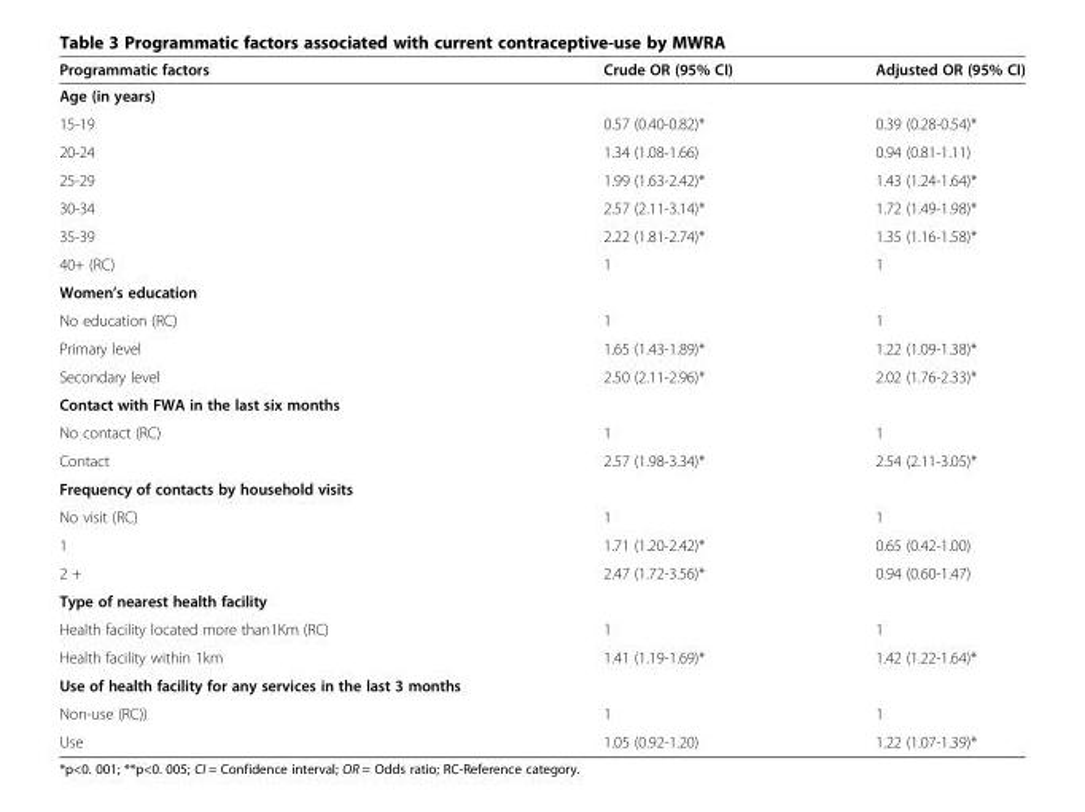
<table><thead><tr><td>Programmatic factors</td><td>Crude OR (95% CI)</td><td>Adjusted OR (95% CI)</td></tr></thead><tbody><tr><td colspan="3">Age (in years)</td></tr><tr><td>15-19</td><td>0.57 (0.40-0.82)*</td><td>0.39 (0.28-0.54)*</td></tr><tr><td>20-24</td><td>1.34 (1.08-1.66)</td><td>0.94 (0.81-1.11)</td></tr><tr><td>25-29</td><td>1.99 (1.63-2.42)*</td><td>1.43 (1.24-1.64)*</td></tr><tr><td>30-34</td><td>2.57 (2.11-3.14)*</td><td>1.72 (1.49-1.98)*</td></tr><tr><td>35-39</td><td>2.22 (1.81-2.74)*</td><td>1.35 (1.16-1.58)*</td></tr><tr><td>40+ (RC)</td><td>1</td><td>1</td></tr><tr><td colspan="3">Women’s education</td></tr><tr><td>No education (RC)</td><td>1</td><td>1</td></tr><tr><td>Primary level</td><td>1.65 (1.43-1.89)*</td><td>1.22 (1.09-1.38)*</td></tr><tr><td>Secondary level</td><td>2.50 (2.11-2.96)*</td><td>2.02 (1.76-2.33)*</td></tr><tr><td colspan="3">Contact with FWA in the last six months</td></tr><tr><td>No contact (RC)</td><td>1</td><td>1</td></tr><tr><td>Contact</td><td>2.57 (1.98-3.34)*</td><td>2.54 (2.11-3.05)*</td></tr><tr><td colspan="3">Frequency of contacts by household visits</td></tr><tr><td>No visit (RC)</td><td>1</td><td>1</td></tr><tr><td>1</td><td>1.71 (1.20-2.42)*</td><td>0.65 (0.42-1.00)</td></tr><tr><td>2 +</td><td>2.47 (1.72-3.56)*</td><td>0.94 (0.60-1.47)</td></tr><tr><td colspan="3">Type of nearest health facility</td></tr><tr><td>Health facility located more than1Km (RC)</td><td>1</td><td>1</td></tr><tr><td>Health facility within 1km</td><td>1.41 (1.19-1.69)*</td><td>1.42 (1.22-1.64)*</td></tr><tr><td colspan="3">Use of health facility for any services in the last 3 months</td></tr><tr><td>Non-use (RC))</td><td>1</td><td>1</td></tr><tr><td>Use</td><td>1.05 (0.92-1.20)</td><td>1.22 (1.07-1.39)*</td></tr></tbody></table>